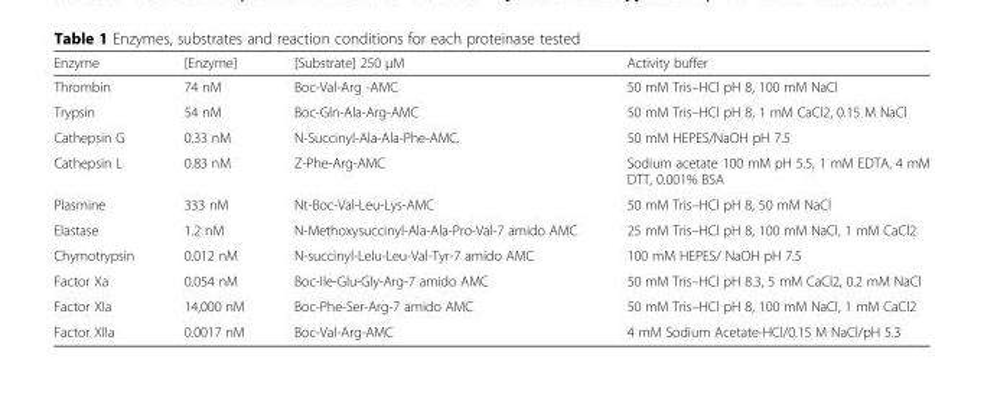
<table><thead><tr><td>Enzyme</td><td>[Enzyme]</td><td>[Substrate] 250 μM</td><td>Activity buffer</td></tr></thead><tbody><tr><td>Thrombin</td><td>74 nM</td><td>Boc-Val-Arg -AMC</td><td>50 mM Tris–HCl pH 8, 100 mM NaCl</td></tr><tr><td>Trypsin</td><td>54 nM</td><td>Boc-Gln-Ala-Arg-AMC</td><td>50 mM Tris–HCl pH 8, 1 mM CaCl2, 0.15 M NaCl</td></tr><tr><td>Cathepsin G</td><td>0.33 nM</td><td>N-Succinyl-Ala-Ala-Phe-AMC.</td><td>50 mM HEPES/NaOH pH 7.5</td></tr><tr><td>Cathepsin L</td><td>0.83 nM</td><td>Z-Phe-Arg-AMC</td><td>Sodium acetate 100 mM pH 5.5, 1 mM EDTA, 4 mM DTT, 0.001% BSA</td></tr><tr><td>Plasmine</td><td>333 nM</td><td>Nt-Boc-Val-Leu-Lys-AMC</td><td>50 mM Tris–HCl pH 8, 50 mM NaCl</td></tr><tr><td>Elastase</td><td>1.2 nM</td><td>N-Methoxysuccinyl-Ala-Ala-Pro-Val-7 amido AMC</td><td>25 mM Tris–HCl pH 8, 100 mM NaCl, 1 mM CaCl2</td></tr><tr><td>Chymotrypsin</td><td>0.012 nM</td><td>N-succinyl-Lelu-Leu-Val-Tyr-7 amido AMC</td><td>100 mM HEPES/ NaOH pH 7.5</td></tr><tr><td>Factor Xa</td><td>0.054 nM</td><td>Boc-Ile-Glu-Gly-Arg-7 amido AMC</td><td>50 mM Tris–HCl pH 8.3, 5 mM CaCl2, 0.2 mM NaCl</td></tr><tr><td>Factor XIa</td><td>14,000 nM</td><td>Boc-Phe-Ser-Arg-7 amido AMC</td><td>50 mM Tris–HCl pH 8, 100 mM NaCl, 1 mM CaCl2</td></tr><tr><td>Factor XIIa</td><td>0.0017 nM</td><td>Boc-Val-Arg-AMC</td><td>4 mM Sodium Acetate-HCl/0.15 M NaCl/pH 5.3</td></tr></tbody></table>